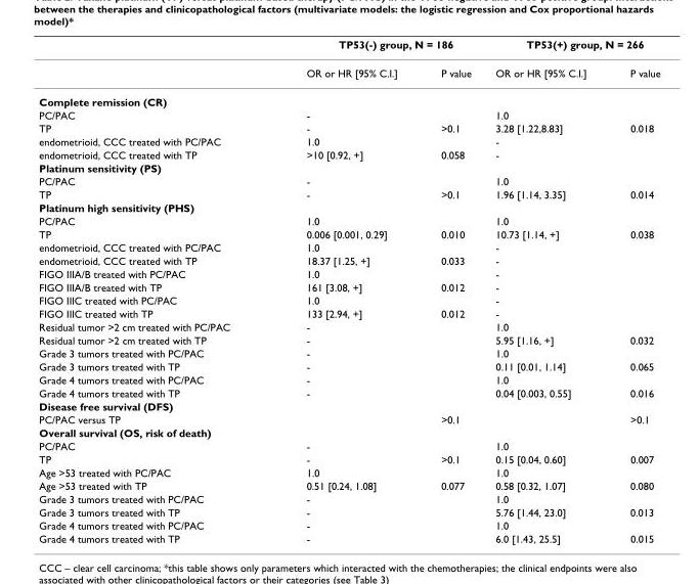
<table><thead><tr><td rowspan="2"></td><td colspan="2">TP53(-) group, N = 186</td><td colspan="2">TP53(+) group, N = 266</td></tr><tr><td>OR or HR [95% C.I.]</td><td>P value</td><td>OR or HR [95% C.I.]</td><td>P value</td></tr></thead><tbody><tr><td colspan="5">Complete remission (CR)</td></tr><tr><td>PC/PAC</td><td>-</td><td></td><td>1.0</td><td></td></tr><tr><td>TP</td><td>-</td><td>&gt;0.1</td><td>3.28 [1.22,8.83]</td><td>0.018</td></tr><tr><td>endometrioid, CCC treated with PC/PAC</td><td>1.0</td><td></td><td>-</td><td></td></tr><tr><td>endometrioid, CCC treated with TP</td><td>&gt;10 [0.92, +]</td><td>0.058</td><td>-</td><td></td></tr><tr><td colspan="5">Platinum sensitivity (PS)</td></tr><tr><td>PC/PAC</td><td>-</td><td></td><td>1.0</td><td></td></tr><tr><td>TP</td><td>-</td><td>&gt;0.1</td><td>1.96 [1.14, 3.35]</td><td>0.014</td></tr><tr><td colspan="5">Platinum high sensitivity (PHS)</td></tr><tr><td>PC/PAC</td><td>1.0</td><td></td><td>1.0</td><td></td></tr><tr><td>TP</td><td>0.006 [0.001, 0.29]</td><td>0.010</td><td>10.73 [1.14, +]</td><td>0.038</td></tr><tr><td>endometrioid, CCC treated with PC/PAC</td><td>1.0</td><td></td><td>-</td><td></td></tr><tr><td>endometrioid, CCC treated with TP</td><td>18.37 [1.25, +]</td><td>0.033</td><td>-</td><td></td></tr><tr><td>FIGO IIIA/B treated with PC/PAC</td><td>1.0</td><td></td><td>-</td><td></td></tr><tr><td>FIGO IIIA/B treated with TP</td><td>161 [3.08, +]</td><td>0.012</td><td>-</td><td></td></tr><tr><td>FIGO IIIC treated with PC/PAC</td><td>1.0</td><td></td><td>-</td><td></td></tr><tr><td>FIGO IIIC treated with TP</td><td>133 [2.94, +]</td><td>0.012</td><td>-</td><td></td></tr><tr><td>Residual tumor &gt;2 cm treated with PC/PAC</td><td>-</td><td></td><td>1.0</td><td></td></tr><tr><td>Residual tumor &gt;2 cm treated with TP</td><td>-</td><td></td><td>5.95 [1.16, +]</td><td>0.032</td></tr><tr><td>Grade 3 tumors treated with PC/PAC</td><td>-</td><td></td><td>1.0</td><td></td></tr><tr><td>Grade 3 tumors treated with TP</td><td>-</td><td></td><td>0.11 [0.01, 1.14]</td><td>0.065</td></tr><tr><td>Grade 4 tumors treated with PC/PAC</td><td>-</td><td></td><td>1.0</td><td></td></tr><tr><td>Grade 4 tumors treated with TP</td><td>-</td><td></td><td>0.04 [0.003, 0.55]</td><td>0.016</td></tr><tr><td colspan="5">Disease free survival (DFS)</td></tr><tr><td>PC/PAC versus TP</td><td></td><td>&gt;0.1</td><td></td><td>&gt;0.1</td></tr><tr><td colspan="5">Overall survival (OS, risk of death)</td></tr><tr><td>PC/PAC</td><td>-</td><td></td><td>1.0</td><td></td></tr><tr><td>TP</td><td>-</td><td>&gt;0.1</td><td>0.15 [0.04, 0.60]</td><td>0.007</td></tr><tr><td>Age &gt;53 treated with PC/PAC</td><td>1.0</td><td></td><td>1.0</td><td></td></tr><tr><td>Age &gt;53 treated with TP</td><td>0.51 [0.24, 1.08]</td><td>0.077</td><td>0.58 [0.32, 1.07]</td><td>0.080</td></tr><tr><td>Grade 3 tumors treated with PC/PAC</td><td>-</td><td></td><td>1.0</td><td></td></tr><tr><td>Grade 3 tumors treated with TP</td><td>-</td><td></td><td>5.76 [1.44, 23.0]</td><td>0.013</td></tr><tr><td>Grade 4 tumors treated with PC/PAC</td><td>-</td><td></td><td>1.0</td><td></td></tr><tr><td>Grade 4 tumors treated with TP</td><td>-</td><td></td><td>6.0 [1.43, 25.5]</td><td>0.015</td></tr></tbody></table>